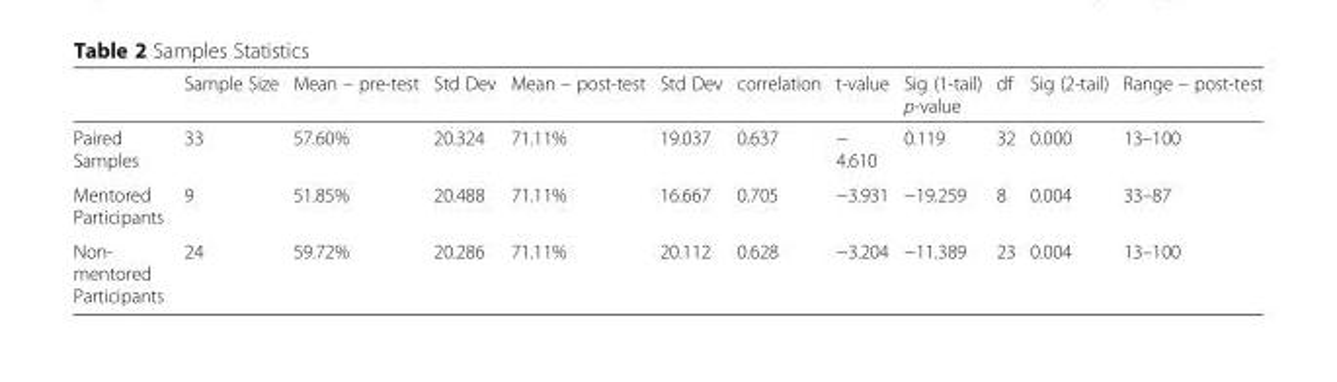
<table><thead><tr><td></td><td>Sample Size</td><td>Mean – pre-test</td><td>Std Dev</td><td>Mean – post-test</td><td>Std Dev</td><td>correlation</td><td>t-value</td><td>Sig (1-tail) p-value</td><td>df</td><td>Sig (2-tail)</td><td>Range – post-test</td></tr></thead><tbody><tr><td>Paired Samples</td><td>33</td><td>57.60%</td><td>20.324</td><td>71.11%</td><td>19.037</td><td>0.637</td><td>− 4.610</td><td>0.119</td><td>32</td><td>0.000</td><td>13–100</td></tr><tr><td>Mentored Participants</td><td>9</td><td>51.85%</td><td>20.488</td><td>71.11%</td><td>16.667</td><td>0.705</td><td>−3.931</td><td>−19.259</td><td>8</td><td>0.004</td><td>33–87</td></tr><tr><td>Non- mentored Participants</td><td>24</td><td>59.72%</td><td>20.286</td><td>71.11%</td><td>20.112</td><td>0.628</td><td>−3.204</td><td>−11.389</td><td>23</td><td>0.004</td><td>13–100</td></tr></tbody></table>